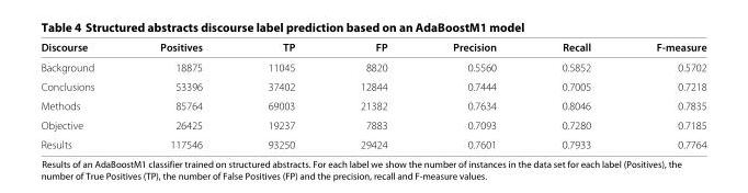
<table><thead><tr><td>Discourse</td><td>Positives</td><td>TP</td><td>FP</td><td>Precision</td><td>Recall</td><td>F-measure</td></tr></thead><tbody><tr><td>Background</td><td>18875</td><td>11045</td><td>8820</td><td>0.5560</td><td>0.5852</td><td>0.5702</td></tr><tr><td>Conclusions</td><td>53396</td><td>37402</td><td>12844</td><td>0.7444</td><td>0.7005</td><td>0.7218</td></tr><tr><td>Methods</td><td>85764</td><td>69003</td><td>21382</td><td>0.7634</td><td>0.8046</td><td>0.7835</td></tr><tr><td>Objective</td><td>26425</td><td>19237</td><td>7883</td><td>0.7093</td><td>0.7280</td><td>0.7185</td></tr><tr><td>Results</td><td>117546</td><td>93250</td><td>29424</td><td>0.7601</td><td>0.7933</td><td>0.7764</td></tr></tbody></table>